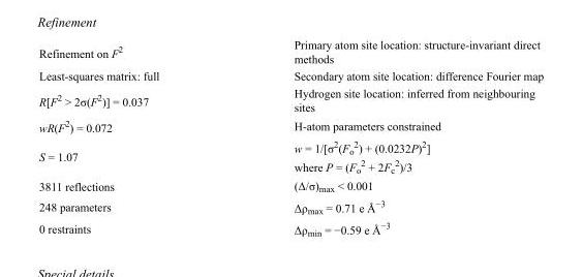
<table><tbody><tr><td>Refinement on F<sup>2</sup></td><td>Primary atom site location: structure-invariant direct methods</td></tr><tr><td>Least-squares matrix: full</td><td>Secondary atom site location: difference Fourier map</td></tr><tr><td>R[F<sup>2</sup> &gt; 2σ(F<sup>2</sup>)] = 0.037</td><td>Hydrogen site location: inferred from neighbouring sites</td></tr><tr><td>wR(F<sup>2</sup>) = 0.072</td><td>H-atom parameters constrained</td></tr><tr><td>S = 1.07</td><td>w = 1/[σ<sup>2</sup>(F<sub>o</sub> <sup>2</sup>) + (0.0232P)<sup>2</sup>] where P = (F<sub>o</sub> <sup>2</sup> + 2F<sub>c</sub> <sup>2</sup>)/3</td></tr><tr><td>3811 reflections</td><td>(Δ/σ)<sub>max</sub> &lt; 0.001</td></tr><tr><td>248 parameters</td><td>Δρ<sub>max</sub> = 0.71 e Å<sup>−3</sup></td></tr><tr><td>0 restraints</td><td>Δρ<sub>min</sub> = −0.59 e Å<sup>−3</sup></td></tr></tbody></table>